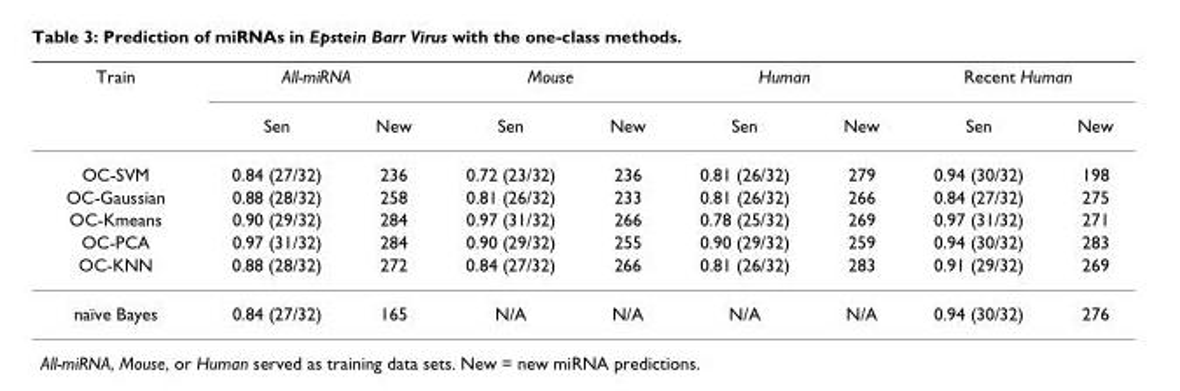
<table><thead><tr><td rowspan="2">Train</td><td colspan="2">All-miRNA</td><td colspan="2">Mouse</td><td colspan="2">Human</td><td colspan="2">Recent Human</td></tr><tr><td>Sen</td><td>New</td><td>Sen</td><td>New</td><td>Sen</td><td>New</td><td>Sen</td><td>New</td></tr></thead><tbody><tr><td>OC-SVM</td><td>0.84 (27/32)</td><td>236</td><td>0.72 (23/32)</td><td>236</td><td>0.81 (26/32)</td><td>279</td><td>0.94 (30/32)</td><td>198</td></tr><tr><td>OC-Gaussian</td><td>0.88 (28/32)</td><td>258</td><td>0.81 (26/32)</td><td>233</td><td>0.81 (26/32)</td><td>266</td><td>0.84 (27/32)</td><td>275</td></tr><tr><td>OC-Kmeans</td><td>0.90 (29/32)</td><td>284</td><td>0.97 (31/32)</td><td>266</td><td>0.78 (25/32)</td><td>269</td><td>0.97 (31/32)</td><td>271</td></tr><tr><td>OC-PCA</td><td>0.97 (31/32)</td><td>284</td><td>0.90 (29/32)</td><td>255</td><td>0.90 (29/32)</td><td>259</td><td>0.94 (30/32)</td><td>283</td></tr><tr><td>OC-KNN</td><td>0.88 (28/32)</td><td>272</td><td>0.84 (27/32)</td><td>266</td><td>0.81 (26/32)</td><td>283</td><td>0.91 (29/32)</td><td>269</td></tr><tr><td>naïve Bayes</td><td>0.84 (27/32)</td><td>165</td><td>N/A</td><td>N/A</td><td>N/A</td><td>N/A</td><td>0.94 (30/32)</td><td>276</td></tr></tbody></table>